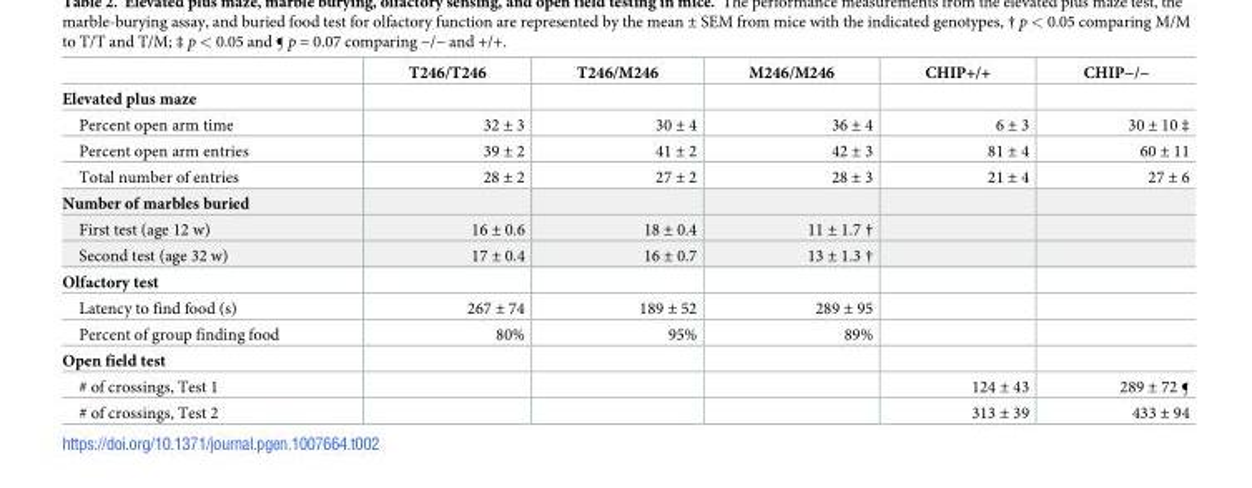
<table><thead><tr><td></td><td>T246/T246</td><td>T246/M246</td><td>M246/M246</td><td>CHIP+/+</td><td>CHIP−/−</td></tr></thead><tbody><tr><td colspan="6">Elevated plus maze</td></tr><tr><td>Percent open arm time</td><td>32 ± 3</td><td>30 ± 4</td><td>36 ± 4</td><td>6 ± 3</td><td>30 ± 10 ‡</td></tr><tr><td>Percent open arm entries</td><td>39 ± 2</td><td>41 ± 2</td><td>42 ± 3</td><td>81 ± 4</td><td>60 ± 11</td></tr><tr><td>Total number of entries</td><td>28 ± 2</td><td>27 ± 2</td><td>28 ± 3</td><td>21 ± 4</td><td>27 ± 6</td></tr><tr><td colspan="6">Number of marbles buried</td></tr><tr><td>First test (age 12 w)</td><td>16 ± 0.6</td><td>18 ± 0.4</td><td>11 ± 1.7 †</td><td></td><td></td></tr><tr><td>Second test (age 32 w)</td><td>17 ± 0.4</td><td>16 ± 0.7</td><td>13 ± 1.3 †</td><td></td><td></td></tr><tr><td colspan="6">Olfactory test</td></tr><tr><td>Latency to find food (s)</td><td>267 ± 74</td><td>189 ± 52</td><td>289 ± 95</td><td></td><td></td></tr><tr><td>Percent of group finding food</td><td>80%</td><td>95%</td><td>89%</td><td></td><td></td></tr><tr><td colspan="6">Open field test</td></tr><tr><td># of crossings, Test 1</td><td></td><td></td><td></td><td>124 ± 43</td><td>289 ± 72 ¶</td></tr><tr><td># of crossings, Test 2</td><td></td><td></td><td></td><td>313 ± 39</td><td>433 ± 94</td></tr></tbody></table>